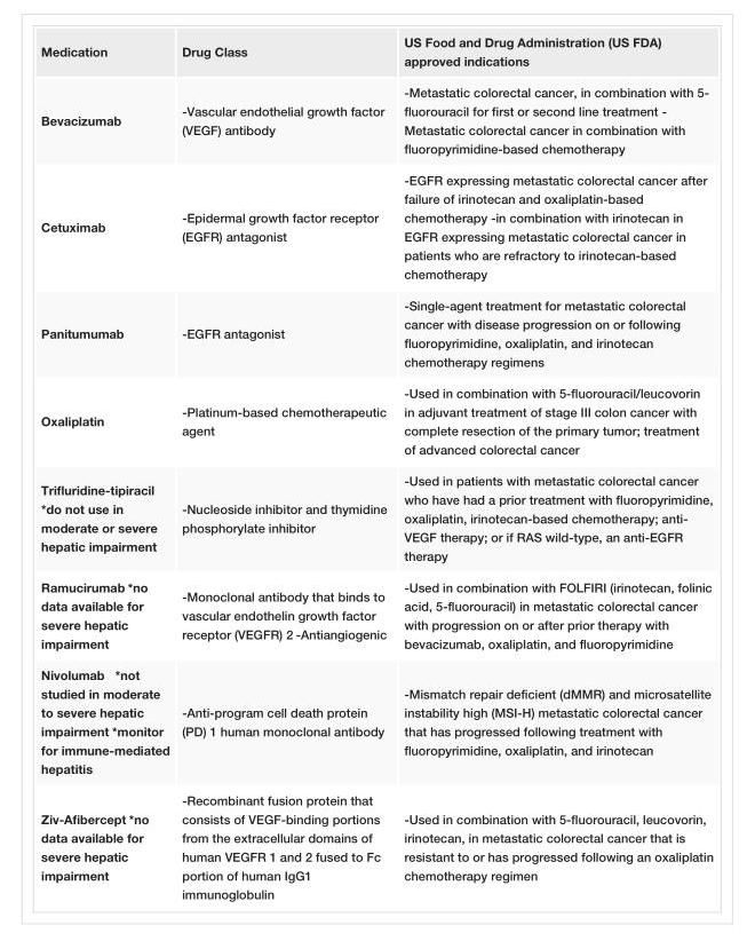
<table><tbody><tr><td>Medication</td><td>Drug Class</td><td>US Food and Drug Administration (US FDA) approved indications</td></tr><tr><td>Bevacizumab</td><td>-Vascular endothelial growth factor (VEGF) antibody</td><td>-Metastatic colorectal cancer, in combination with 5- fluorouracil for first or second line treatment - Metastatic colorectal cancer in combination with fluoropyrimidine-based chemotherapy</td></tr><tr><td>Cetuximab</td><td>-Epidermal growth factor receptor (EGFR) antagonist</td><td>-EGFR expressing metastatic colorectal cancer after failure of irinotecan and oxaliplatin-based chemotherapy -in combination with irinotecan in EGFR expressing metastatic colorectal cancer in patients who are refractory to irinotecan-based chemotherapy</td></tr><tr><td>Panitumumab</td><td>-EGFR antagonist</td><td>-Single-agent treatment for metastatic colorectal cancer with disease progression on or following fluoropyrimidine, oxaliplatin, and irinotecan chemotherapy regimens</td></tr><tr><td>Oxaliplatin</td><td>-Platinum-based chemotherapeutic agent</td><td>-Used in combination with 5-fluorouracil/leucovorin in adjuvant treatment of stage III colon cancer with complete resection of the primary tumor; treatment of advanced colorectal cancer</td></tr><tr><td>Trifluridine-tipiracil *do not use in moderate or severe hepatic impairment</td><td>-Nucleoside inhibitor and thymidine phosphorylate inhibitor</td><td>-Used in patients with metastatic colorectal cancer who have had a prior treatment with fluoropyrimidine, oxaliplatin, irinotecan-based chemotherapy; anti- VEGF therapy; or if RAS wild-type, an anti-EGFR therapy</td></tr><tr><td>Ramucirumab *no data available for severe hepatic impairment</td><td>-Monoclonal antibody that binds to vascular endothelin growth factor receptor (VEGFR) 2 -Antiangiogenic</td><td>-Used in combination with FOLFIRI (irinotecan, folinic acid, 5-fluorouracil) in metastatic colorectal cancer with progression on or after prior therapy with bevacizumab, oxaliplatin, and fluoropyrimidine</td></tr><tr><td>Nivolumab *not studied in moderate to severe hepatic impairment *monitor for immune-mediated hepatitis</td><td>-Anti-program cell death protein (PD) 1 human monoclonal antibody</td><td>-Mismatch repair deficient (dMMR) and microsatellite instability high (MSI-H) metastatic colorectal cancer that has progressed following treatment with fluoropyrimidine, oxaliplatin, and irinotecan</td></tr><tr><td>Ziv-Afibercept *no data available for severe hepatic impairment</td><td>-Recombinant fusion protein that consists of VEGF-binding portions from the extracellular domains of human VEGFR 1 and 2 fused to Fc portion of human IgG1 immunoglobulin</td><td>-Used in combination with 5-fluorouracil, leucovorin, irinotecan, in metastatic colorectal cancer that is resistant to or has progressed following an oxaliplatin chemotherapy regimen</td></tr></tbody></table>